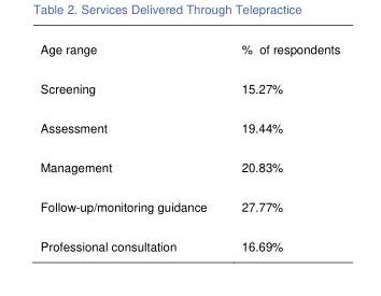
<table><thead><tr><td>Age range</td><td>% of respondents</td></tr></thead><tbody><tr><td>Screening</td><td>15.27%</td></tr><tr><td>Assessment</td><td>19.44%</td></tr><tr><td>Management</td><td>20.83%</td></tr><tr><td>Follow-up/monitoring guidance</td><td>27.77%</td></tr><tr><td>Professional consultation</td><td>16.69%</td></tr></tbody></table>